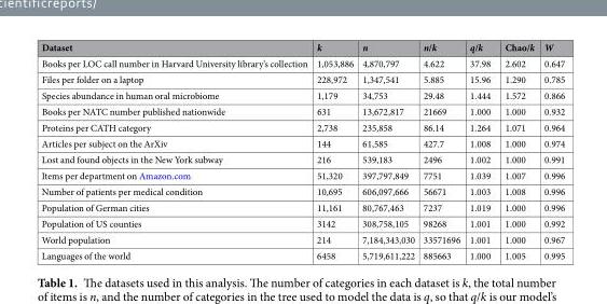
<table><thead><tr><td>Dataset</td><td>k</td><td>n</td><td>n/k</td><td>q/k</td><td>Chao/k</td><td>W</td></tr></thead><tbody><tr><td>Books per LOC call number in Harvard University library’s collection</td><td>1,053,886</td><td>4,870,797</td><td>4.622</td><td>37.98</td><td>2.602</td><td>0.647</td></tr><tr><td>Files per folder on a laptop</td><td>228,972</td><td>1,347,541</td><td>5.885</td><td>15.96</td><td>1.290</td><td>0.785</td></tr><tr><td>Species abundance in human oral microbiome</td><td>1,179</td><td>34,753</td><td>29.48</td><td>1.444</td><td>1.572</td><td>0.866</td></tr><tr><td>Books per NATC number published nationwide</td><td>631</td><td>13,672,817</td><td>21669</td><td>1.000</td><td>1.000</td><td>0.932</td></tr><tr><td>Proteins per CATH category</td><td>2,738</td><td>235,858</td><td>86.14</td><td>1.264</td><td>1.071</td><td>0.964</td></tr><tr><td>Articles per subject on the ArXiv</td><td>144</td><td>61,585</td><td>427.7</td><td>1.008</td><td>1.000</td><td>0.974</td></tr><tr><td>Lost and found objects in the New York subway</td><td>216</td><td>539,183</td><td>2496</td><td>1.002</td><td>1.000</td><td>0.991</td></tr><tr><td>Items per department on Amazon.com</td><td>51,320</td><td>397,797,849</td><td>7751</td><td>1.039</td><td>1.007</td><td>0.996</td></tr><tr><td>Number of patients per medical condition</td><td>10,695</td><td>606,097,666</td><td>56671</td><td>1.003</td><td>1.008</td><td>0.996</td></tr><tr><td>Population of German cities</td><td>11,161</td><td>80,767,463</td><td>7237</td><td>1.019</td><td>1.000</td><td>0.996</td></tr><tr><td>Population of US counties</td><td>3142</td><td>308,758,105</td><td>98268</td><td>1.001</td><td>1.000</td><td>0.992</td></tr><tr><td>World population</td><td>214</td><td>7,184,343,030</td><td>33571696</td><td>1.001</td><td>1.000</td><td>0.967</td></tr><tr><td>Languages of the world</td><td>6458</td><td>5,719,611,222</td><td>885663</td><td>1.000</td><td>1.005</td><td>0.995</td></tr></tbody></table>